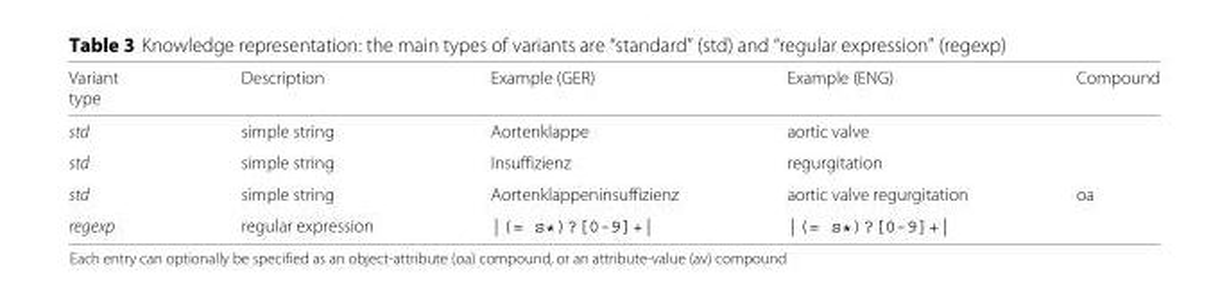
<table><thead><tr><td>Variant type</td><td>Description</td><td>Example (GER)</td><td>Example (ENG)</td><td>Compound</td></tr></thead><tbody><tr><td>std</td><td>simple string</td><td>Aortenklappe</td><td>aortic valve</td><td></td></tr><tr><td>std</td><td>simple string</td><td>Insuffizienz</td><td>regurgitation</td><td></td></tr><tr><td>std</td><td>simple string</td><td>Aortenklappeninsuffizienz</td><td>aortic valve regurgitation</td><td>oa</td></tr><tr><td>regexp</td><td>regular expression</td><td>|(= s*)?[0-9]+|</td><td>|(= s*)?[0-9]+|</td><td></td></tr></tbody></table>